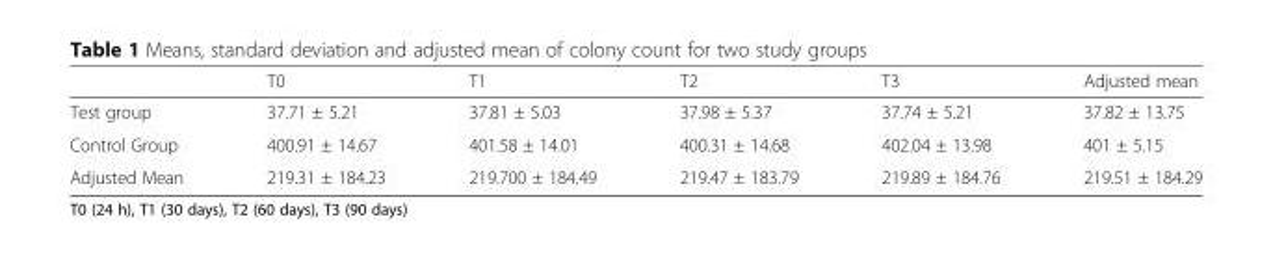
<table><thead><tr><td></td><td>T0</td><td>T1</td><td>T2</td><td>T3</td><td>Adjusted mean</td></tr></thead><tbody><tr><td>Test group</td><td>37.71 ± 5.21</td><td>37.81 ± 5.03</td><td>37.98 ± 5.37</td><td>37.74 ± 5.21</td><td>37.82 ± 13.75</td></tr><tr><td>Control Group</td><td>400.91 ± 14.67</td><td>401.58 ± 14.01</td><td>400.31 ± 14.68</td><td>402.04 ± 13.98</td><td>401 ± 5.15</td></tr><tr><td>Adjusted Mean</td><td>219.31 ± 184.23</td><td>219.700 ± 184.49</td><td>219.47 ± 183.79</td><td>219.89 ± 184.76</td><td>219.51 ± 184.29</td></tr></tbody></table>